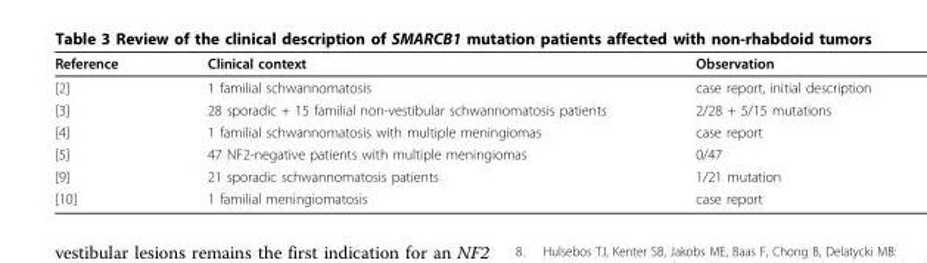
<table><thead><tr><td>Reference</td><td>Clinical context</td><td>Observation</td></tr></thead><tbody><tr><td>[2]</td><td>1 familial schwannomatosis</td><td>case report, initial description</td></tr><tr><td>[3]</td><td>28 sporadic + 15 familial non-vestibular schwannomatosis patients</td><td>2/28 + 5/15 mutations</td></tr><tr><td>[4]</td><td>1 familial schwannomatosis with multiple meningiomas</td><td>case report</td></tr><tr><td>[5]</td><td>47 NF2-negative patients with multiple meningiomas</td><td>0/47</td></tr><tr><td>[9]</td><td>21 sporadic schwannomatosis patients</td><td>1/21 mutation</td></tr><tr><td>[10]</td><td>1 familial meningiomatosis</td><td>case report</td></tr></tbody></table>